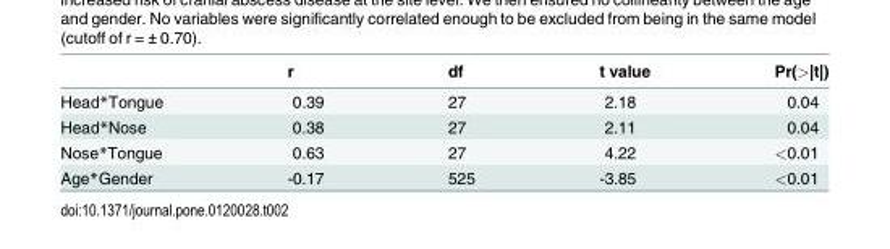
<table><thead><tr><td></td><td>r</td><td>df</td><td>t value</td><td>Pr(&gt;|t|)</td></tr></thead><tbody><tr><td>Head*Tongue</td><td>0.39</td><td>27</td><td>2.18</td><td>0.04</td></tr><tr><td>Head*Nose</td><td>0.38</td><td>27</td><td>2.11</td><td>0.04</td></tr><tr><td>Nose*Tongue</td><td>0.63</td><td>27</td><td>4.22</td><td>&lt;0.01</td></tr><tr><td>Age*Gender</td><td>-0.17</td><td>525</td><td>-3.85</td><td>&lt;0.01</td></tr></tbody></table>